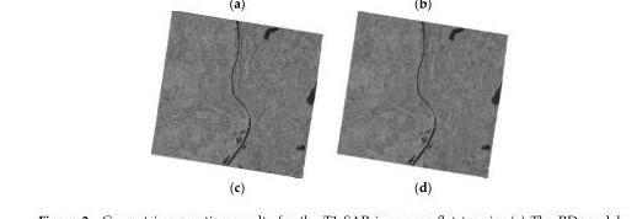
<table><thead><tr><td>Image Sensor</td><td>TerraSAR-X</td><td>ALOS-PLASAR</td><td>ALOS-PLASAR</td></tr></thead><tbody><tr><td>Acquisition Time</td><td>13 March 2008</td><td>7 May 2008</td><td>12 April 2009</td></tr><tr><td>Center Longitude (°)</td><td>111.82</td><td>103.56</td><td>109.37</td></tr><tr><td>Center Latitude (°)</td><td>−2.72</td><td>31.20</td><td>29.17</td></tr><tr><td>Image Size (azimuth × range)</td><td>23,361 × 10,288</td><td>35,192 × 4761</td><td>101,938 × 4962</td></tr><tr><td>Pixel Size (m)</td><td>2.4×0.9</td><td>3.1×14.9</td><td>4.1 × 18.5</td></tr><tr><td>Altitude Range (m)</td><td>−2–113</td><td>468–5272</td><td>80–2557</td></tr><tr><td>Topography</td><td>Flat</td><td>Mountain</td><td>Flat, Mountain</td></tr></tbody></table>